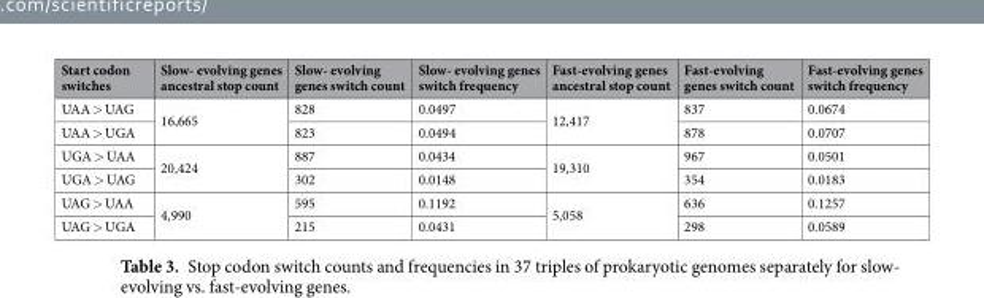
<table><thead><tr><td>Start codon switches</td><td>Slow- evolving genes ancestral stop count</td><td>Slow- evolving genes switch count</td><td>Slow- evolving genes switch frequency</td><td>Fast-evolving genes ancestral stop count</td><td>Fast-evolving genes switch count</td><td>Fast-evolving genes switch frequency</td></tr></thead><tbody><tr><td>UAA &gt; UAG</td><td rowspan="2">16,665</td><td>828</td><td>0.0497</td><td rowspan="2">12,417</td><td>837</td><td>0.0674</td></tr><tr><td>UAA &gt; UGA</td><td>823</td><td>0.0494</td><td>878</td><td>0.0707</td></tr><tr><td>UGA &gt; UAA</td><td rowspan="2">20,424</td><td>887</td><td>0.0434</td><td rowspan="2">19,310</td><td>967</td><td>0.0501</td></tr><tr><td>UGA &gt; UAG</td><td>302</td><td>0.0148</td><td>354</td><td>0.0183</td></tr><tr><td>UAG &gt; UAA</td><td rowspan="2">4,990</td><td>595</td><td>0.1192</td><td rowspan="2">5,058</td><td>636</td><td>0.1257</td></tr><tr><td>UAG &gt; UGA</td><td>215</td><td>0.0431</td><td>298</td><td>0.0589</td></tr></tbody></table>